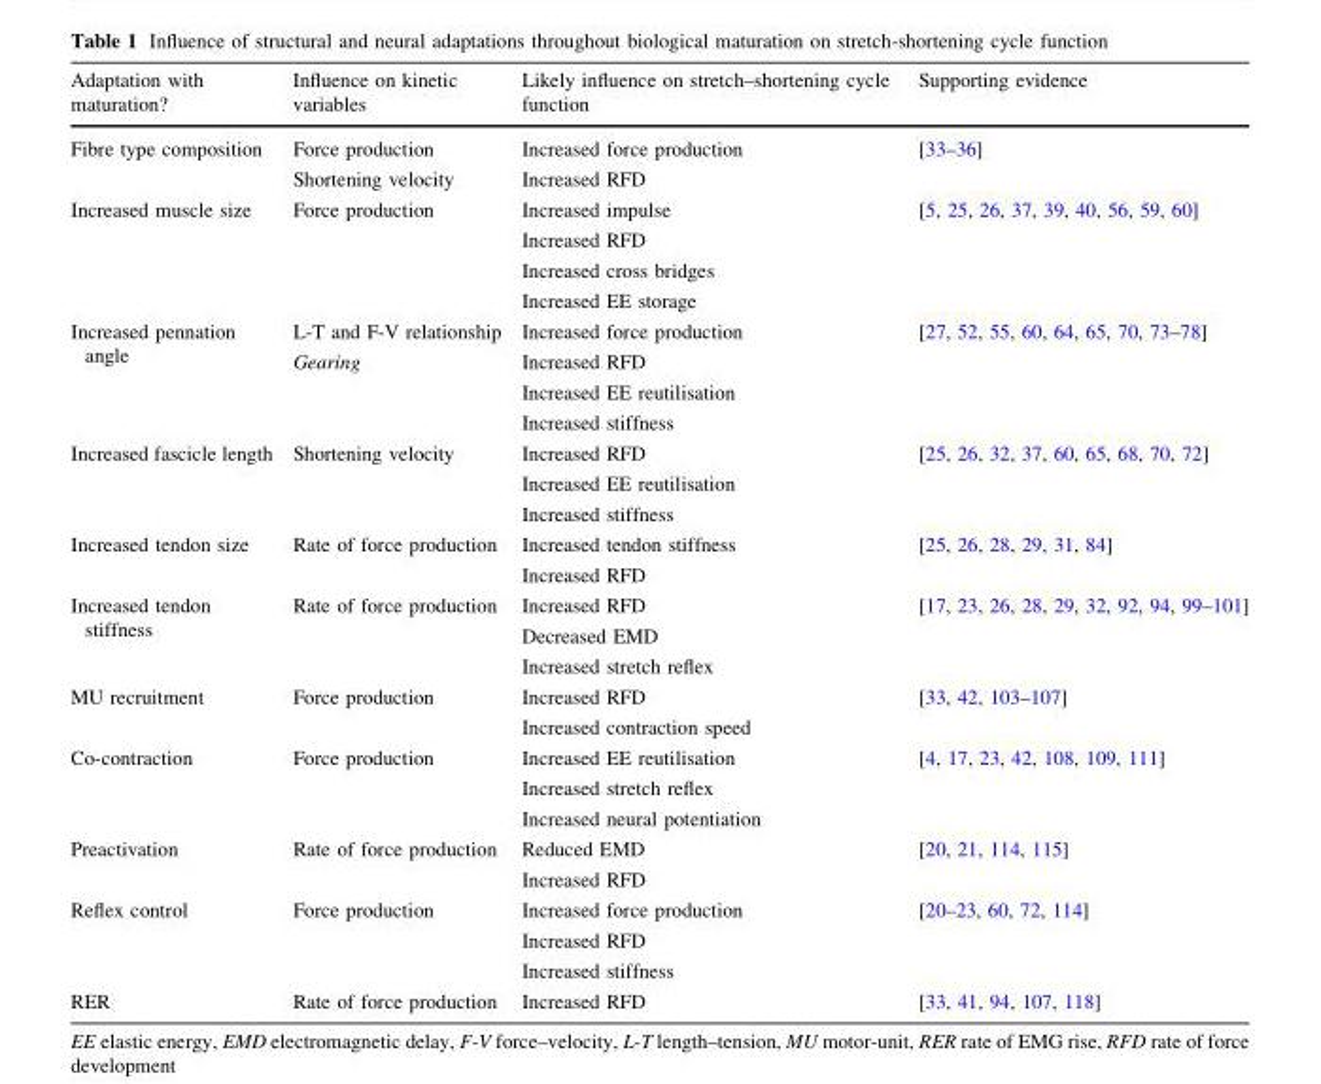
<table><thead><tr><td>Adaptation with maturation?</td><td>Influence on kinetic variables</td><td>Likely influence on stretch–shortening cycle function</td><td>Supporting evidence</td></tr></thead><tbody><tr><td>Fibre type composition</td><td>Force production Shortening velocity</td><td>Increased force production Increased RFD</td><td>[33–36]</td></tr><tr><td>Increased muscle size</td><td>Force production</td><td>Increased impulse Increased RFD Increased cross bridges Increased EE storage</td><td>[5, 25, 26, 37, 39, 40, 56, 59, 60]</td></tr><tr><td>Increased pennation angle</td><td>L-T and F-V relationship Gearing</td><td>Increased force production Increased RFD Increased EE reutilisation Increased stiffness</td><td>[27, 52, 55, 60, 64, 65, 70, 73–78]</td></tr><tr><td>Increased fascicle length</td><td>Shortening velocity</td><td>Increased RFD Increased EE reutilisation Increased stiffness</td><td>[25, 26, 32, 37, 60, 65, 68, 70, 72]</td></tr><tr><td>Increased tendon size</td><td>Rate of force production</td><td>Increased tendon stiffness Increased RFD</td><td>[25, 26, 28, 29, 31, 84]</td></tr><tr><td>Increased tendon stiffness</td><td>Rate of force production</td><td>Increased RFD Decreased EMD Increased stretch reflex</td><td>[17, 23, 26, 28, 29, 32, 92, 94, 99–101]</td></tr><tr><td>MU recruitment</td><td>Force production</td><td>Increased RFD Increased contraction speed</td><td>[33, 42, 103–107]</td></tr><tr><td>Co-contraction</td><td>Force production</td><td>Increased EE reutilisation Increased stretch reflex Increased neural potentiation</td><td>[4, 17, 23, 42, 108, 109, 111]</td></tr><tr><td>Preactivation</td><td>Rate of force production</td><td>Reduced EMD Increased RFD</td><td>[20, 21, 114, 115]</td></tr><tr><td>Reflex control</td><td>Force production</td><td>Increased force production Increased RFD Increased stiffness</td><td>[20–23, 60, 72, 114]</td></tr><tr><td>RER</td><td>Rate of force production</td><td>Increased RFD</td><td>[33, 41, 94, 107, 118]</td></tr></tbody></table>